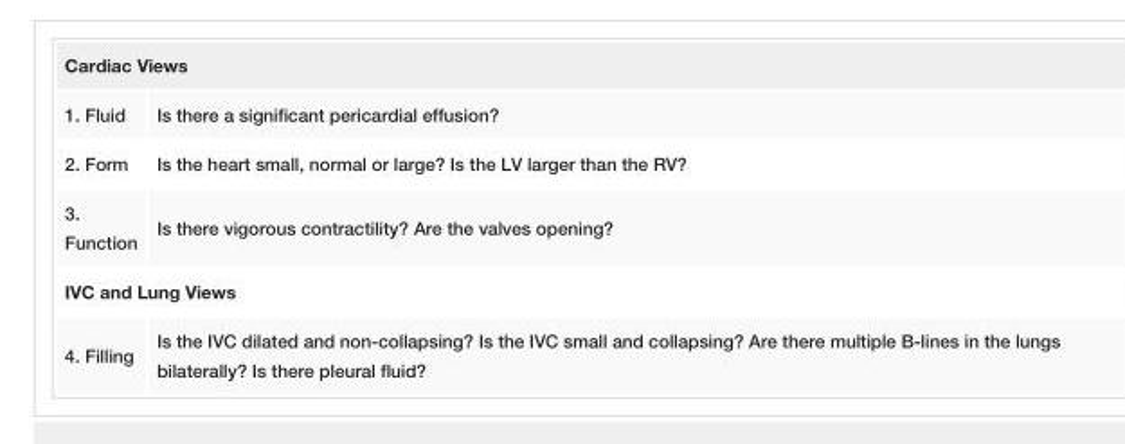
<table><tbody><tr><td colspan="2">Cardiac Views</td></tr><tr><td>1. Fluid</td><td>Is there a significant pericardial effusion?</td></tr><tr><td>2. Form</td><td>Is the heart small, normal or large? Is the LV larger than the RV?</td></tr><tr><td>3. Function</td><td>Is there vigorous contractility? Are the valves opening?</td></tr><tr><td colspan="2">IVC and Lung Views</td></tr><tr><td>4. Filling</td><td>Is the IVC dilated and non-collapsing? Is the IVC small and collapsing? Are there multiple B-lines in the lungs bilaterally? Is there pleural fluid?</td></tr></tbody></table>